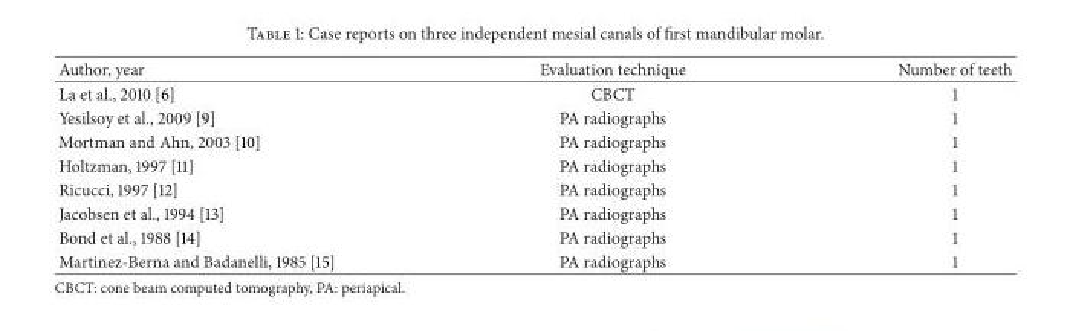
<table><thead><tr><td>Author, year</td><td>Evaluation technique</td><td>Number of teeth</td></tr></thead><tbody><tr><td>La et al., 2010 [6]</td><td>CBCT</td><td>1</td></tr><tr><td>Yesilsoy et al., 2009 [9]</td><td>PA radiographs</td><td>1</td></tr><tr><td>Mortman and Ahn, 2003 [10]</td><td>PA radiographs</td><td>1</td></tr><tr><td>Holtzman, 1997 [11]</td><td>PA radiographs</td><td>1</td></tr><tr><td>Ricucci, 1997 [12]</td><td>PA radiographs</td><td>1</td></tr><tr><td>Jacobsen et al., 1994 [13]</td><td>PA radiographs</td><td>1</td></tr><tr><td>Bond et al., 1988 [14]</td><td>PA radiographs</td><td>1</td></tr><tr><td>Martinez-Berna and Badanelli, 1985 [15]</td><td>PA radiographs</td><td>1</td></tr></tbody></table>